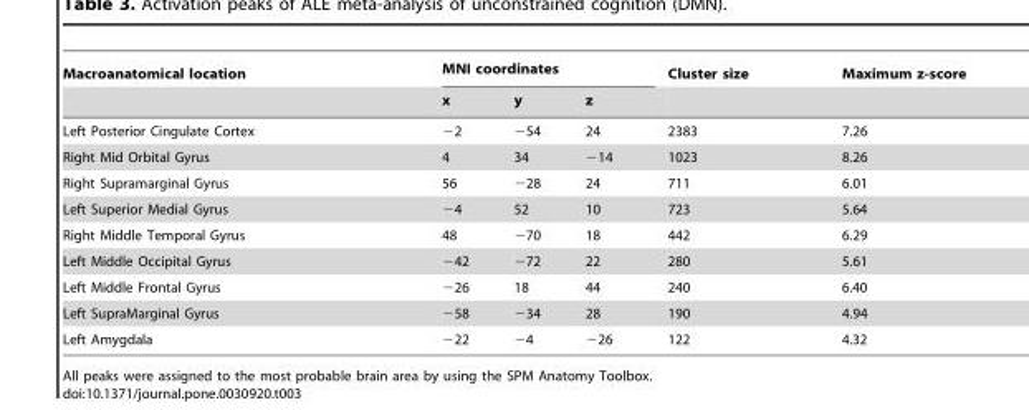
<table><thead><tr><td rowspan="2">Macroanatomical location</td><td colspan="3">MNI coordinates</td><td rowspan="2">Cluster size</td><td rowspan="2">Maximum z-score</td></tr><tr><td>x</td><td>y</td><td>z</td></tr></thead><tbody><tr><td>Left Posterior Cingulate Cortex</td><td>−2</td><td>−54</td><td>24</td><td>2383</td><td>7.26</td></tr><tr><td>Right Mid Orbital Gyrus</td><td>4</td><td>34</td><td>−14</td><td>1023</td><td>8.26</td></tr><tr><td>Right Supramarginal Gyrus</td><td>56</td><td>−28</td><td>24</td><td>711</td><td>6.01</td></tr><tr><td>Left Superior Medial Gyrus</td><td>−4</td><td>52</td><td>10</td><td>723</td><td>5.64</td></tr><tr><td>Right Middle Temporal Gyrus</td><td>48</td><td>−70</td><td>18</td><td>442</td><td>6.29</td></tr><tr><td>Left Middle Occipital Gyrus</td><td>−42</td><td>−72</td><td>22</td><td>280</td><td>5.61</td></tr><tr><td>Left Middle Frontal Gyrus</td><td>−26</td><td>18</td><td>44</td><td>240</td><td>6.40</td></tr><tr><td>Left SupraMarginal Gyrus</td><td>−58</td><td>−34</td><td>28</td><td>190</td><td>4.94</td></tr><tr><td>Left Amygdala</td><td>−22</td><td>−4</td><td>−26</td><td>122</td><td>4.32</td></tr></tbody></table>